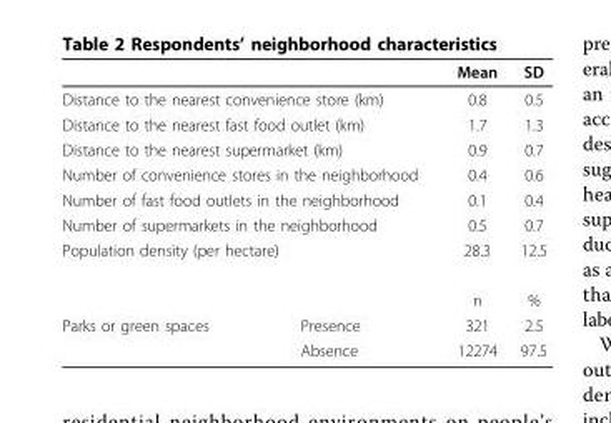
<table><thead><tr><td></td><td></td><td>Mean</td><td>SD</td></tr></thead><tbody><tr><td colspan="2">Distance to the nearest convenience store (km)</td><td>0.8</td><td>0.5</td></tr><tr><td colspan="2">Distance to the nearest fast food outlet (km)</td><td>1.7</td><td>1.3</td></tr><tr><td colspan="2">Distance to the nearest supermarket (km)</td><td>0.9</td><td>0.7</td></tr><tr><td colspan="2">Number of convenience stores in the neighborhood</td><td>0.4</td><td>0.6</td></tr><tr><td colspan="2">Number of fast food outlets in the neighborhood</td><td>0.1</td><td>0.4</td></tr><tr><td colspan="2">Number of supermarkets in the neighborhood</td><td>0.5</td><td>0.7</td></tr><tr><td rowspan="2" colspan="2">Population density (per hectare)</td><td>28.3</td><td>12.5</td></tr><tr><td>n</td><td>%</td></tr><tr><td rowspan="2">Parks or green spaces</td><td>Presence</td><td>321</td><td>2.5</td></tr><tr><td>Absence</td><td>12274</td><td>97.5</td></tr></tbody></table>